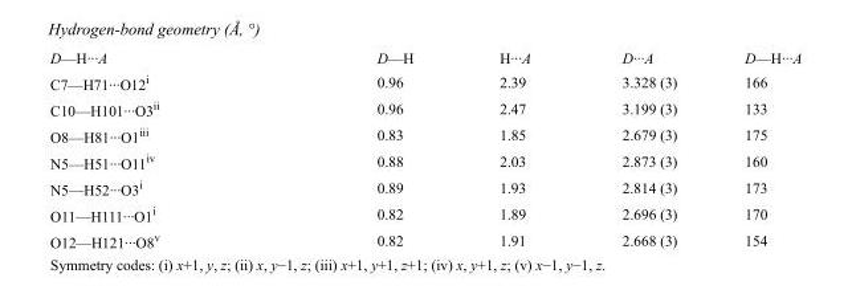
<table><tbody><tr><td>D—H···A</td><td>D—H</td><td>H···A</td><td>D···A</td><td>D—H···A</td></tr><tr><td>C7—H71···O12<sup>i</sup></td><td>0.96</td><td>2.39</td><td>3.328 (3)</td><td>166</td></tr><tr><td>C10—H101···O3<sup>ii</sup></td><td>0.96</td><td>2.47</td><td>3.199 (3)</td><td>133</td></tr><tr><td>O8—H81···O1<sup>iii</sup></td><td>0.83</td><td>1.85</td><td>2.679 (3)</td><td>175</td></tr><tr><td>N5—H51···O11<sup>iv</sup></td><td>0.88</td><td>2.03</td><td>2.873 (3)</td><td>160</td></tr><tr><td>N5—H52···O3<sup>i</sup></td><td>0.89</td><td>1.93</td><td>2.814 (3)</td><td>173</td></tr><tr><td>O11—H111···O1<sup>i</sup></td><td>0.82</td><td>1.89</td><td>2.696 (3)</td><td>170</td></tr><tr><td>O12—H121···O8<sup>v</sup></td><td>0.82</td><td>1.91</td><td>2.668 (3)</td><td>154</td></tr></tbody></table>